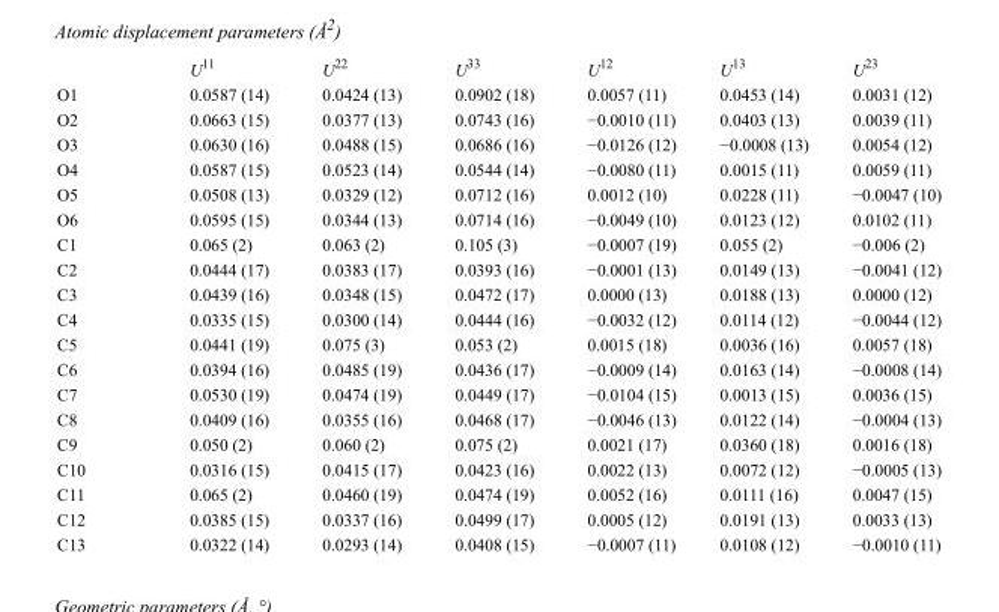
<table><thead><tr><td></td><td>U<sup>11</sup></td><td>U<sup>22</sup></td><td>U<sup>33</sup></td><td>U<sup>12</sup></td><td>U<sup>13</sup></td><td>U<sup>23</sup></td></tr></thead><tbody><tr><td>O1</td><td>0.0587 (14)</td><td>0.0424 (13)</td><td>0.0902 (18)</td><td>0.0057 (11)</td><td>0.0453 (14)</td><td>0.0031 (12)</td></tr><tr><td>O2</td><td>0.0663 (15)</td><td>0.0377 (13)</td><td>0.0743 (16)</td><td>−0.0010 (11)</td><td>0.0403 (13)</td><td>0.0039 (11)</td></tr><tr><td>O3</td><td>0.0630 (16)</td><td>0.0488 (15)</td><td>0.0686 (16)</td><td>−0.0126 (12)</td><td>−0.0008 (13)</td><td>0.0054 (12)</td></tr><tr><td>O4</td><td>0.0587 (15)</td><td>0.0523 (14)</td><td>0.0544 (14)</td><td>−0.0080 (11)</td><td>0.0015 (11)</td><td>0.0059 (11)</td></tr><tr><td>O5</td><td>0.0508 (13)</td><td>0.0329 (12)</td><td>0.0712 (16)</td><td>0.0012 (10)</td><td>0.0228 (11)</td><td>−0.0047 (10)</td></tr><tr><td>O6</td><td>0.0595 (15)</td><td>0.0344 (13)</td><td>0.0714 (16)</td><td>−0.0049 (10)</td><td>0.0123 (12)</td><td>0.0102 (11)</td></tr><tr><td>C1</td><td>0.065 (2)</td><td>0.063 (2)</td><td>0.105 (3)</td><td>−0.0007 (19)</td><td>0.055 (2)</td><td>−0.006 (2)</td></tr><tr><td>C2</td><td>0.0444 (17)</td><td>0.0383 (17)</td><td>0.0393 (16)</td><td>−0.0001 (13)</td><td>0.0149 (13)</td><td>−0.0041 (12)</td></tr><tr><td>C3</td><td>0.0439 (16)</td><td>0.0348 (15)</td><td>0.0472 (17)</td><td>0.0000 (13)</td><td>0.0188 (13)</td><td>0.0000 (12)</td></tr><tr><td>C4</td><td>0.0335 (15)</td><td>0.0300 (14)</td><td>0.0444 (16)</td><td>−0.0032 (12)</td><td>0.0114 (12)</td><td>−0.0044 (12)</td></tr><tr><td>C5</td><td>0.0441 (19)</td><td>0.075 (3)</td><td>0.053 (2)</td><td>0.0015 (18)</td><td>0.0036 (16)</td><td>0.0057 (18)</td></tr><tr><td>C6</td><td>0.0394 (16)</td><td>0.0485 (19)</td><td>0.0436 (17)</td><td>−0.0009 (14)</td><td>0.0163 (14)</td><td>−0.0008 (14)</td></tr><tr><td>C7</td><td>0.0530 (19)</td><td>0.0474 (19)</td><td>0.0449 (17)</td><td>−0.0104 (15)</td><td>0.0013 (15)</td><td>0.0036 (15)</td></tr><tr><td>C8</td><td>0.0409 (16)</td><td>0.0355 (16)</td><td>0.0468 (17)</td><td>−0.0046 (13)</td><td>0.0122 (14)</td><td>−0.0004 (13)</td></tr><tr><td>C9</td><td>0.050 (2)</td><td>0.060 (2)</td><td>0.075 (2)</td><td>0.0021 (17)</td><td>0.0360 (18)</td><td>0.0016 (18)</td></tr><tr><td>C10</td><td>0.0316 (15)</td><td>0.0415 (17)</td><td>0.0423 (16)</td><td>0.0022 (13)</td><td>0.0072 (12)</td><td>−0.0005 (13)</td></tr><tr><td>C11</td><td>0.065 (2)</td><td>0.0460 (19)</td><td>0.0474 (19)</td><td>0.0052 (16)</td><td>0.0111 (16)</td><td>0.0047 (15)</td></tr><tr><td>C12</td><td>0.0385 (15)</td><td>0.0337 (16)</td><td>0.0499 (17)</td><td>0.0005 (12)</td><td>0.0191 (13)</td><td>0.0033 (13)</td></tr><tr><td>C13</td><td>0.0322 (14)</td><td>0.0293 (14)</td><td>0.0408 (15)</td><td>−0.0007 (11)</td><td>0.0108 (12)</td><td>−0.0010 (11)</td></tr></tbody></table>